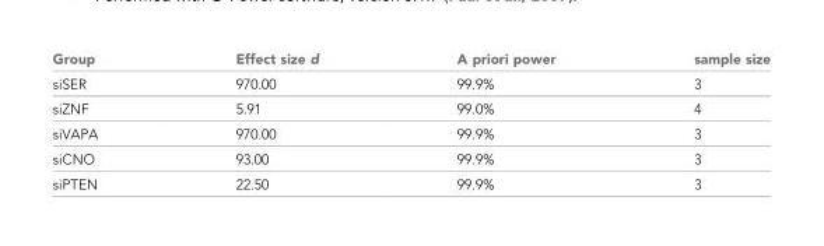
<table><thead><tr><td>Group</td><td>Effect size d</td><td>A priori power</td><td>sample size</td></tr></thead><tbody><tr><td>siSER</td><td>970.00</td><td>99.9%</td><td>3</td></tr><tr><td>siZNF</td><td>5.91</td><td>99.0%</td><td>4</td></tr><tr><td>siVAPA</td><td>970.00</td><td>99.9%</td><td>3</td></tr><tr><td>siCNO</td><td>93.00</td><td>99.9%</td><td>3</td></tr><tr><td>siPTEN</td><td>22.50</td><td>99.9%</td><td>3</td></tr></tbody></table>